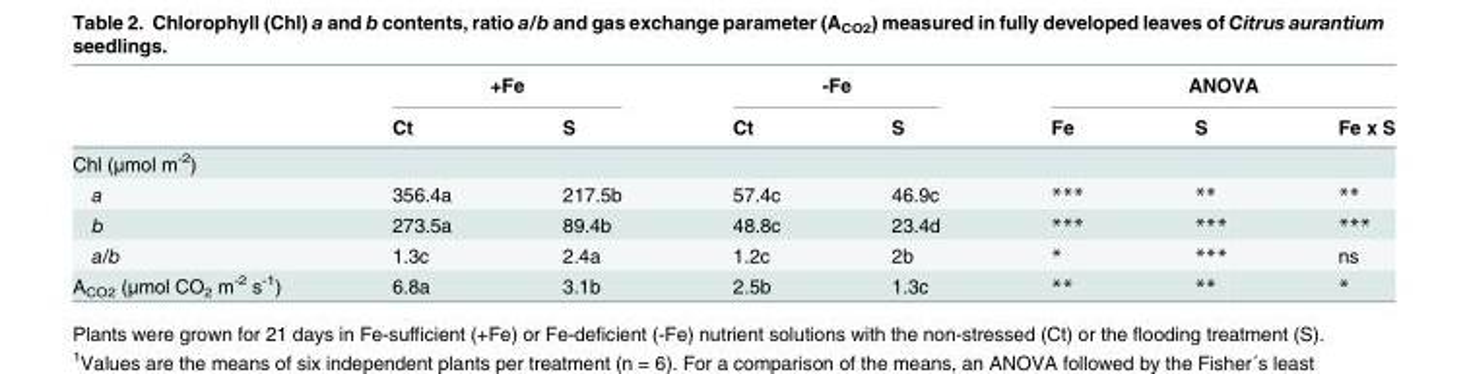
<table><thead><tr><td rowspan="2"></td><td colspan="2">+Fe</td><td colspan="2">-Fe</td><td colspan="3">ANOVA</td></tr><tr><td>Ct</td><td>S</td><td>Ct</td><td>S</td><td>Fe</td><td>S</td><td>Fe x S</td></tr></thead><tbody><tr><td colspan="8">Chl (μmol m<sup>-2</sup>)</td></tr><tr><td>a</td><td>356.4a</td><td>217.5b</td><td>57.4c</td><td>46.9c</td><td>***</td><td>**</td><td>**</td></tr><tr><td>b</td><td>273.5a</td><td>89.4b</td><td>48.8c</td><td>23.4d</td><td>***</td><td>***</td><td>***</td></tr><tr><td>a/b</td><td>1.3c</td><td>2.4a</td><td>1.2c</td><td>2b</td><td>*</td><td>***</td><td>ns</td></tr><tr><td>A<sub>CO2</sub> (μmol CO<sub>2</sub> m<sup>-2</sup> s<sup>-1</sup>)</td><td>6.8a</td><td>3.1b</td><td>2.5b</td><td>1.3c</td><td>**</td><td>**</td><td>*</td></tr></tbody></table>